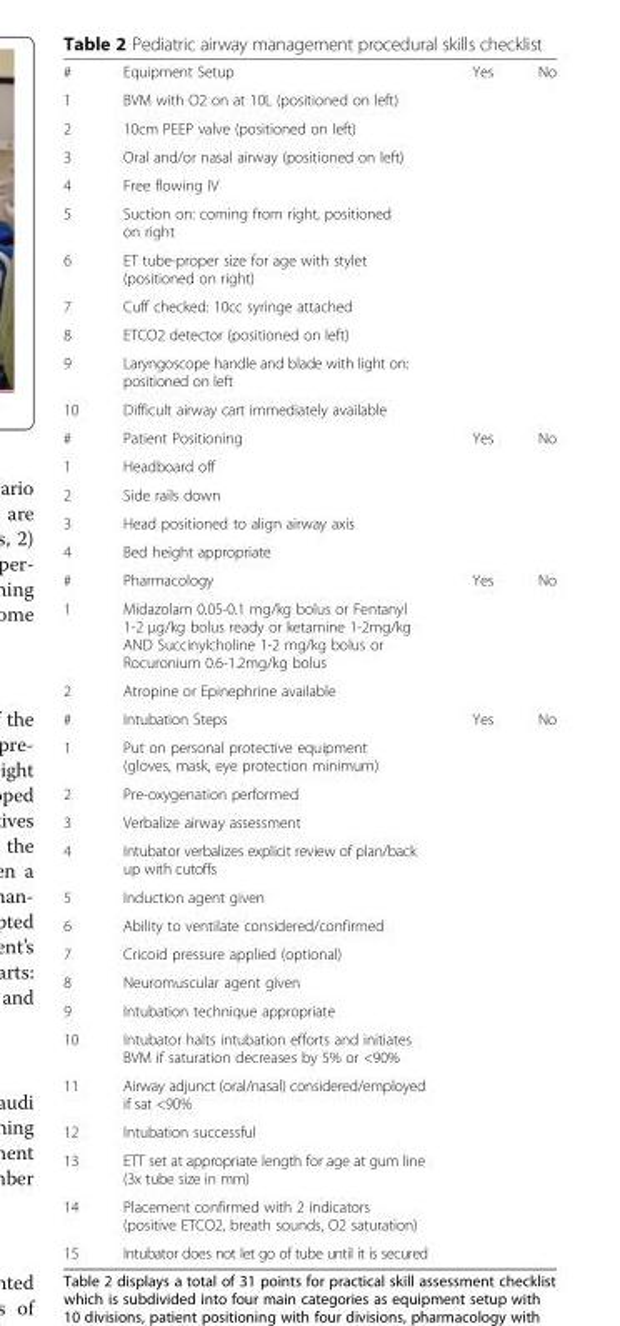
<table><tbody><tr><td>#</td><td>Equipment Setup</td><td>Yes</td><td>No</td></tr><tr><td>1</td><td>BVM with O2 on at 10L (positioned on left)</td><td></td><td></td></tr><tr><td>2</td><td>10cm PEEP valve (positioned on left)</td><td></td><td></td></tr><tr><td>3</td><td>Oral and/or nasal airway (positioned on left)</td><td></td><td></td></tr><tr><td>4</td><td>Free flowing IV</td><td></td><td></td></tr><tr><td>5</td><td>Suction on: coming from right, positioned on right</td><td></td><td></td></tr><tr><td>6</td><td>ET tube-proper size for age with stylet (positioned on right)</td><td></td><td></td></tr><tr><td>7</td><td>Cuff checked: 10cc syringe attached</td><td></td><td></td></tr><tr><td>8</td><td>ETCO2 detector (positioned on left)</td><td></td><td></td></tr><tr><td>9</td><td>Laryngoscope handle and blade with light on: positioned on left</td><td></td><td></td></tr><tr><td>10</td><td>Difficult airway cart immediately available</td><td></td><td></td></tr><tr><td>#</td><td>Patient Positioning</td><td>Yes</td><td>No</td></tr><tr><td>1</td><td>Headboard off</td><td></td><td></td></tr><tr><td>2</td><td>Side rails down</td><td></td><td></td></tr><tr><td>3</td><td>Head positioned to align airway axis</td><td></td><td></td></tr><tr><td>4</td><td>Bed height appropriate</td><td></td><td></td></tr><tr><td>#</td><td>Pharmacology</td><td>Yes</td><td>No</td></tr><tr><td>1</td><td>Midazolam 0.05-0.1 mg/kg bolus or Fentanyl 1-2 μg/kg bolus ready or ketamine 1-2mg/kg AND Succinylcholine 1-2 mg/kg bolus or Rocuronium 0.6-1.2mg/kg bolus</td><td></td><td></td></tr><tr><td>2</td><td>Atropine or Epinephrine available</td><td></td><td></td></tr><tr><td>#</td><td>Intubation Steps</td><td>Yes</td><td>No</td></tr><tr><td>1</td><td>Put on personal protective equipment (gloves, mask, eye protection minimum)</td><td></td><td></td></tr><tr><td>2</td><td>Pre-oxygenation performed</td><td></td><td></td></tr><tr><td>3</td><td>Verbalize airway assessment</td><td></td><td></td></tr><tr><td>4</td><td>Intubator verbalizes explicit review of plan/back up with cutoffs</td><td></td><td></td></tr><tr><td>5</td><td>Induction agent given</td><td></td><td></td></tr><tr><td>6</td><td>Ability to ventilate considered/confirmed</td><td></td><td></td></tr><tr><td>7</td><td>Cricoid pressure applied (optional)</td><td></td><td></td></tr><tr><td>8</td><td>Neuromuscular agent given</td><td></td><td></td></tr><tr><td>9</td><td>Intubation technique appropriate</td><td></td><td></td></tr><tr><td>10</td><td>Intubator halts intubation efforts and initiates BVM if saturation decreases by 5% or &lt;90%</td><td></td><td></td></tr><tr><td>11</td><td>Airway adjunct (oral/nasal) considered/employed if sat &lt;90%</td><td></td><td></td></tr><tr><td>12</td><td>Intubation successful</td><td></td><td></td></tr><tr><td>13</td><td>ETT set at appropriate length for age at gum line (3x tube size in mm)</td><td></td><td></td></tr><tr><td>14</td><td>Placement confirmed with 2 indicators (positive ETCO2, breath sounds, O2 saturation)</td><td></td><td></td></tr><tr><td>15</td><td>Intubator does not let go of tube until it is secured</td><td></td><td></td></tr></tbody></table>